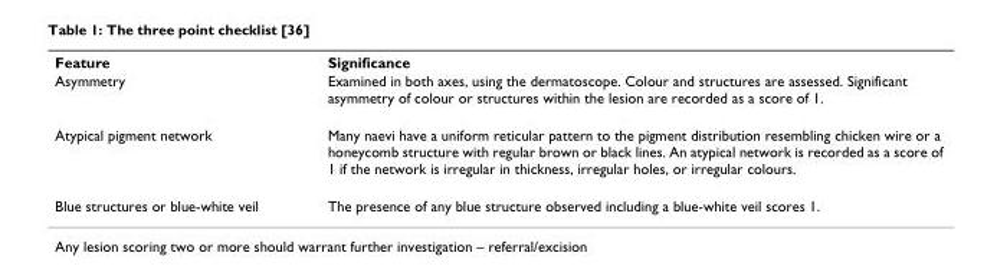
<table><tbody><tr><td>Feature</td><td>Significance</td></tr><tr><td>Asymmetry</td><td>Examined in both axes, using the dermatoscope. Colour and structures are assessed. Significant asymmetry of colour or structures within the lesion are recorded as a score of 1.</td></tr><tr><td>Atypical pigment network</td><td>Many naevi have a uniform reticular pattern to the pigment distribution resembling chicken wire or a honeycomb structure with regular brown or black lines. An atypical network is recorded as a score of 1 if the network is irregular in thickness, irregular holes, or irregular colours.</td></tr><tr><td>Blue structures or blue-white veil</td><td>The presence of any blue structure observed including a blue-white veil scores 1.</td></tr></tbody></table>